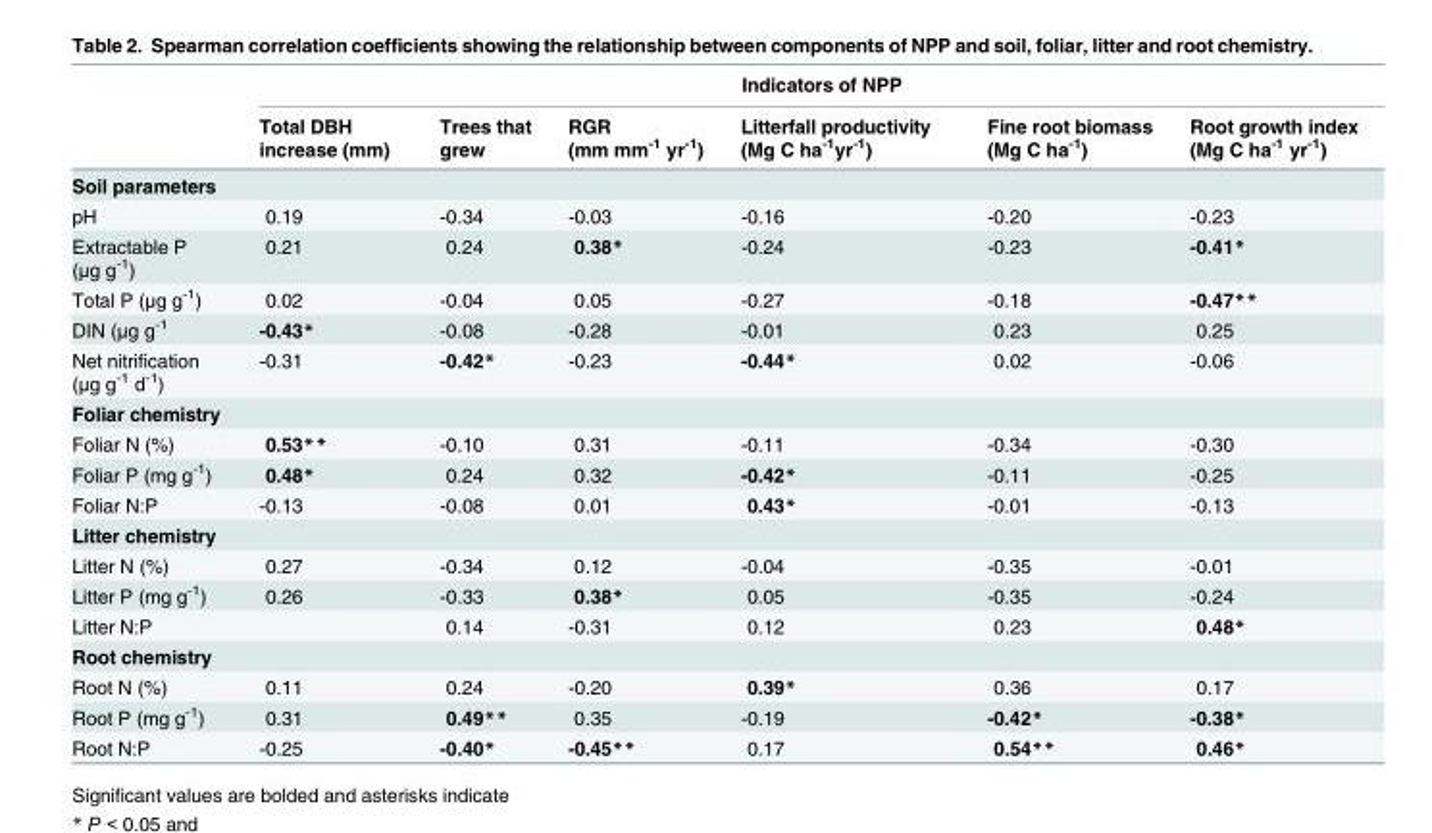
<table><thead><tr><td rowspan="2"></td><td colspan="6">Indicators of NPP</td></tr><tr><td>Total DBH increase (mm)</td><td>Trees that grew</td><td>RGR (mm mm<sup>-1</sup> yr<sup>-1</sup>)</td><td>Litterfall productivity (Mg C ha<sup>-1</sup>yr<sup>-1</sup>)</td><td>Fine root biomass (Mg C ha<sup>-1</sup>)</td><td>Root growth index (Mg C ha<sup>-1</sup> yr<sup>-1</sup>)</td></tr></thead><tbody><tr><td colspan="7">Soil parameters</td></tr><tr><td>pH</td><td>0.19</td><td>-0.34</td><td>-0.03</td><td>-0.16</td><td>-0.20</td><td>-0.23</td></tr><tr><td>Extractable P (μg g<sup>-1</sup>)</td><td>0.21</td><td>0.24</td><td>0.38*</td><td>-0.24</td><td>-0.23</td><td>-0.41*</td></tr><tr><td>Total P (μg g<sup>-1</sup>)</td><td>0.02</td><td>-0.04</td><td>0.05</td><td>-0.27</td><td>-0.18</td><td>-0.47**</td></tr><tr><td>DIN (μg g<sup>-1</sup></td><td>-0.43*</td><td>-0.08</td><td>-0.28</td><td>-0.01</td><td>0.23</td><td>0.25</td></tr><tr><td>Net nitrification (μg g<sup>-1</sup> d<sup>-1</sup>)</td><td>-0.31</td><td>-0.42*</td><td>-0.23</td><td>-0.44*</td><td>0.02</td><td>-0.06</td></tr><tr><td colspan="7">Foliar chemistry</td></tr><tr><td>Foliar N (%)</td><td>0.53**</td><td>-0.10</td><td>0.31</td><td>-0.11</td><td>-0.34</td><td>-0.30</td></tr><tr><td>Foliar P (mg g<sup>-1</sup>)</td><td>0.48*</td><td>0.24</td><td>0.32</td><td>-0.42*</td><td>-0.11</td><td>-0.25</td></tr><tr><td>Foliar N:P</td><td>-0.13</td><td>-0.08</td><td>0.01</td><td>0.43*</td><td>-0.01</td><td>-0.13</td></tr><tr><td colspan="7">Litter chemistry</td></tr><tr><td>Litter N (%)</td><td>0.27</td><td>-0.34</td><td>0.12</td><td>-0.04</td><td>-0.35</td><td>-0.01</td></tr><tr><td>Litter P (mg g<sup>-1</sup>)</td><td>0.26</td><td>-0.33</td><td>0.38*</td><td>0.05</td><td>-0.35</td><td>-0.24</td></tr><tr><td>Litter N:P</td><td></td><td>0.14</td><td>-0.31</td><td>0.12</td><td>0.23</td><td>0.48*</td></tr><tr><td colspan="7">Root chemistry</td></tr><tr><td>Root N (%)</td><td>0.11</td><td>0.24</td><td>-0.20</td><td>0.39*</td><td>0.36</td><td>0.17</td></tr><tr><td>Root P (mg g<sup>-1</sup>)</td><td>0.31</td><td>0.49**</td><td>0.35</td><td>-0.19</td><td>-0.42*</td><td>-0.38*</td></tr><tr><td>Root N:P</td><td>-0.25</td><td>-0.40*</td><td>-0.45**</td><td>0.17</td><td>0.54**</td><td>0.46*</td></tr></tbody></table>